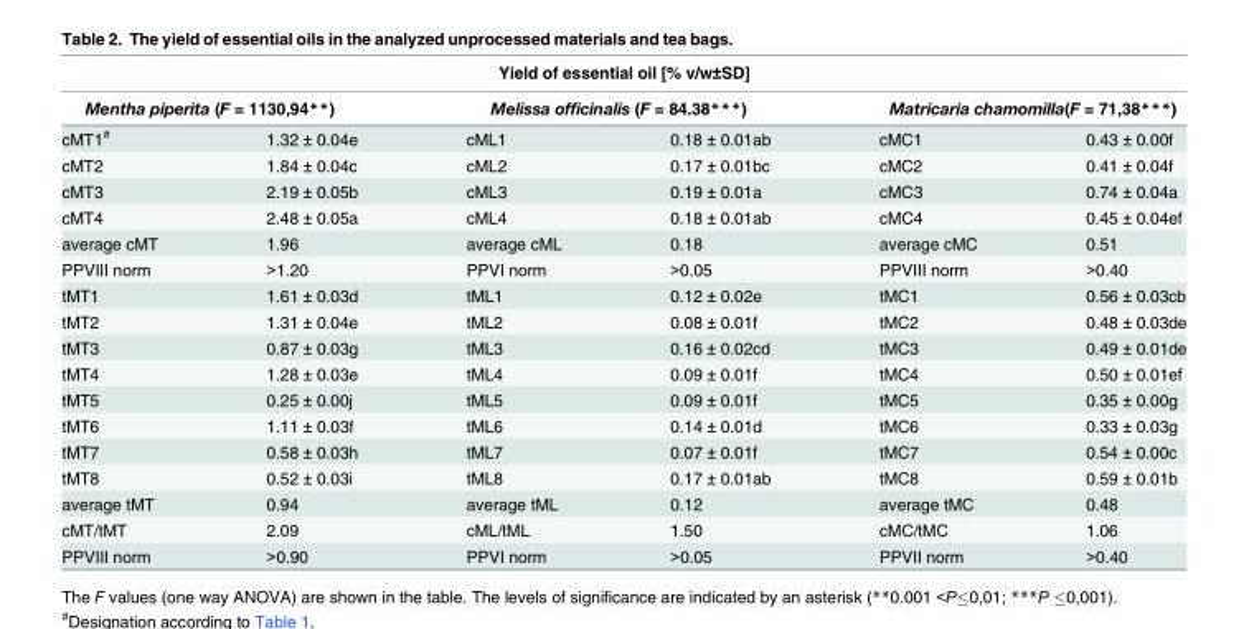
<table><thead><tr><td colspan="6">Yield of essential oil [% v/w±SD]</td></tr><tr><td colspan="2">Mentha piperita (F = 1130,94**)</td><td colspan="2">Melissa officinalis (F = 84.38***)</td><td colspan="2">Matricaria chamomilla(F = 71,38***)</td></tr><tr><td>cMT1<sup>#</sup></td><td>1.32 ± 0.04e</td><td>cML1</td><td>0.18 ± 0.01ab</td><td>cMC1</td><td>0.43 ± 0.00f</td></tr></thead><tbody><tr><td>cMT2</td><td>1.84 ± 0.04c</td><td>cML2</td><td>0.17 ± 0.01bc</td><td>cMC2</td><td>0.41 ± 0.04f</td></tr><tr><td>cMT3</td><td>2.19 ± 0.05b</td><td>cML3</td><td>0.19 ± 0.01a</td><td>cMC3</td><td>0.74 ± 0.04a</td></tr><tr><td>cMT4</td><td>2.48 ± 0.05a</td><td>cML4</td><td>0.18 ± 0.01ab</td><td>cMC4</td><td>0.45 ± 0.04ef</td></tr><tr><td>average cMT</td><td>1.96</td><td>average cML</td><td>0.18</td><td>average cMC</td><td>0.51</td></tr><tr><td>PPVIII norm</td><td>&gt;1.20</td><td>PPVI norm</td><td>&gt;0.05</td><td>PPVIII norm</td><td>&gt;0.40</td></tr><tr><td>tMT1</td><td>1.61 ± 0.03d</td><td>tML1</td><td>0.12 ± 0.02e</td><td>tMC1</td><td>0.56 ± 0.03cb</td></tr><tr><td>tMT2</td><td>1.31 ± 0.04e</td><td>tML2</td><td>0.08 ± 0.01f</td><td>tMC2</td><td>0.48 ± 0.03de</td></tr><tr><td>tMT3</td><td>0.87 ± 0.03g</td><td>tML3</td><td>0.16 ± 0.02cd</td><td>tMC3</td><td>0.49 ± 0.01de</td></tr><tr><td>tMT4</td><td>1.28 ± 0.03e</td><td>tML4</td><td>0.09 ± 0.01f</td><td>tMC4</td><td>0.50 ± 0.01ef</td></tr><tr><td>tMT5</td><td>0.25 ± 0.00j</td><td>tML5</td><td>0.09 ± 0.01f</td><td>tMC5</td><td>0.35 ± 0.00g</td></tr><tr><td>tMT6</td><td>1.11 ± 0.03f</td><td>tML6</td><td>0.14 ± 0.01d</td><td>tMC6</td><td>0.33 ± 0.03g</td></tr><tr><td>tMT7</td><td>0.58 ± 0.03h</td><td>tML7</td><td>0.07 ± 0.01f</td><td>tMC7</td><td>0.54 ± 0.00c</td></tr><tr><td>tMT8</td><td>0.52 ± 0.03i</td><td>tML8</td><td>0.17 ± 0.01ab</td><td>tMC8</td><td>0.59 ± 0.01b</td></tr><tr><td>average tMT</td><td>0.94</td><td>average tML</td><td>0.12</td><td>average tMC</td><td>0.48</td></tr><tr><td>cMT/tMT</td><td>2.09</td><td>cML/tML</td><td>1.50</td><td>cMC/tMC</td><td>1.06</td></tr><tr><td>PPVIII norm</td><td>&gt;0.90</td><td>PPVI norm</td><td>&gt;0.05</td><td>PPVII norm</td><td>&gt;0.40</td></tr></tbody></table>